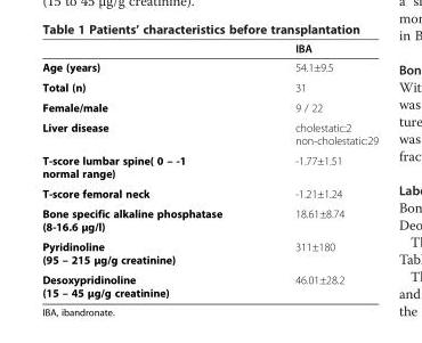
<table><thead><tr><td></td><td>IBA</td></tr></thead><tbody><tr><td>Age (years)</td><td>54.1±9.5</td></tr><tr><td>Total (n)</td><td>31</td></tr><tr><td>Female/male</td><td>9 / 22</td></tr><tr><td>Liver disease</td><td>cholestatic:2 non-cholestatic:29</td></tr><tr><td>T-score lumbar spine( 0 – -1 normal range)</td><td>-1.77±1.51</td></tr><tr><td>T-score femoral neck</td><td>-1.21±1.24</td></tr><tr><td>Bone specific alkaline phosphatase (8-16.6 μg/l)</td><td>18.61±8.74</td></tr><tr><td>Pyridinoline (95 – 215 μg/g creatinine)</td><td>311±180</td></tr><tr><td>Desoxypridinoline (15 – 45 μg/g creatinine)</td><td>46.01±28.2</td></tr></tbody></table>